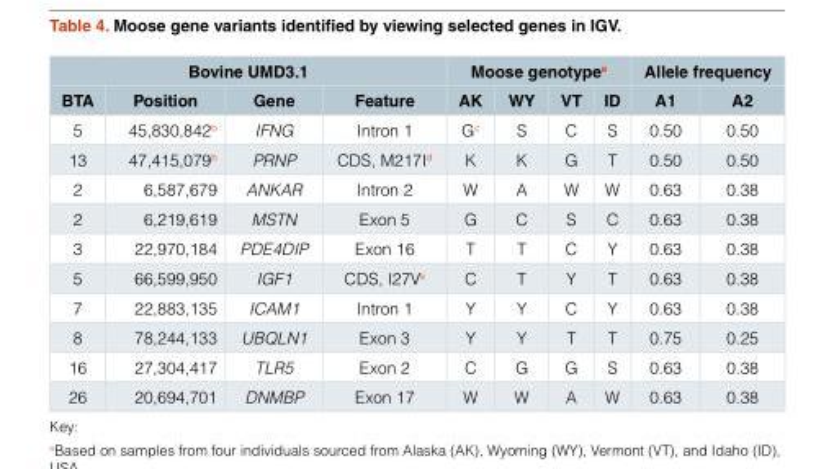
<table><thead><tr><td colspan="4">Bovine UMD3.1</td><td colspan="4">Moose genotype<sup>a</sup></td><td colspan="2">Allele frequency</td></tr><tr><td>BTA</td><td>Position</td><td>Gene</td><td>Feature</td><td>AK</td><td>WY</td><td>VT</td><td>ID</td><td>A1</td><td>A2</td></tr></thead><tbody><tr><td>5</td><td>45,830,842<sup>b</sup></td><td>IFNG</td><td>Intron 1</td><td>G<sup>c</sup></td><td>S</td><td>C</td><td>S</td><td>0.50</td><td>0.50</td></tr><tr><td>13</td><td>47,415,079<sup>b</sup></td><td>PRNP</td><td>CDS, M217I<sup>d</sup></td><td>K</td><td>K</td><td>G</td><td>T</td><td>0.50</td><td>0.50</td></tr><tr><td>2</td><td>6,587,679</td><td>ANKAR</td><td>Intron 2</td><td>W</td><td>A</td><td>W</td><td>W</td><td>0.63</td><td>0.38</td></tr><tr><td>2</td><td>6,219,619</td><td>MSTN</td><td>Exon 5</td><td>G</td><td>C</td><td>S</td><td>C</td><td>0.63</td><td>0.38</td></tr><tr><td>3</td><td>22,970,184</td><td>PDE4DIP</td><td>Exon 16</td><td>T</td><td>T</td><td>C</td><td>Y</td><td>0.63</td><td>0.38</td></tr><tr><td>5</td><td>66,599,950</td><td>IGF1</td><td>CDS, I27V<sup>e</sup></td><td>C</td><td>T</td><td>Y</td><td>T</td><td>0.63</td><td>0.38</td></tr><tr><td>7</td><td>22,883,135</td><td>ICAM1</td><td>Intron 1</td><td>Y</td><td>Y</td><td>C</td><td>Y</td><td>0.63</td><td>0.38</td></tr><tr><td>8</td><td>78,244,133</td><td>UBQLN1</td><td>Exon 3</td><td>Y</td><td>Y</td><td>T</td><td>T</td><td>0.75</td><td>0.25</td></tr><tr><td>16</td><td>27,304,417</td><td>TLR5</td><td>Exon 2</td><td>C</td><td>G</td><td>G</td><td>S</td><td>0.63</td><td>0.38</td></tr><tr><td>26</td><td>20,694,701</td><td>DNMBP</td><td>Exon 17</td><td>W</td><td>W</td><td>A</td><td>W</td><td>0.63</td><td>0.38</td></tr></tbody></table>